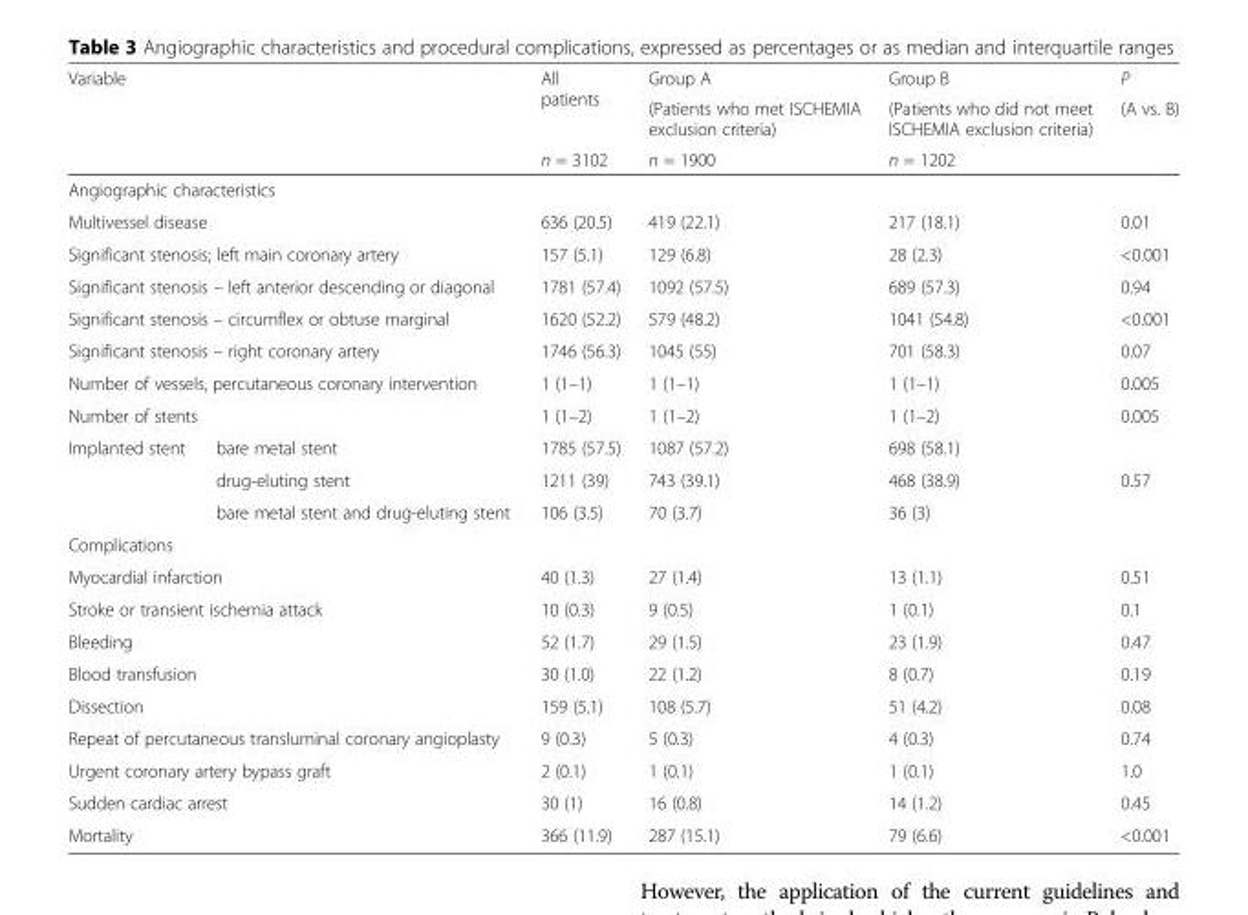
<table><thead><tr><td rowspan="3" colspan="2">Variable</td><td rowspan="3">All patients n = 3102</td><td rowspan="3">Group A (Patients who met ISCHEMIA exclusion criteria) n = 1900</td><td rowspan="3">Group B (Patients who did not meet ISCHEMIA exclusion criteria) n = 1202</td><td rowspan="3">P (A vs. B)</td></tr><tr></tr><tr></tr></thead><tbody><tr><td colspan="6">Angiographic characteristics</td></tr><tr><td colspan="2">Multivessel disease</td><td>636 (20.5)</td><td>419 (22.1)</td><td>217 (18.1)</td><td>0.01</td></tr><tr><td colspan="2">Significant stenosis; left main coronary artery</td><td>157 (5.1)</td><td>129 (6.8)</td><td>28 (2.3)</td><td>&lt;0.001</td></tr><tr><td colspan="2">Significant stenosis – left anterior descending or diagonal</td><td>1781 (57.4)</td><td>1092 (57.5)</td><td>689 (57.3)</td><td>0.94</td></tr><tr><td colspan="2">Significant stenosis – circumflex or obtuse marginal</td><td>1620 (52.2)</td><td>579 (48.2)</td><td>1041 (54.8)</td><td>&lt;0.001</td></tr><tr><td colspan="2">Significant stenosis – right coronary artery</td><td>1746 (56.3)</td><td>1045 (55)</td><td>701 (58.3)</td><td>0.07</td></tr><tr><td colspan="2">Number of vessels, percutaneous coronary intervention</td><td>1 (1–1)</td><td>1 (1–1)</td><td>1 (1–1)</td><td>0.005</td></tr><tr><td colspan="2">Number of stents</td><td>1 (1–2)</td><td>1 (1–2)</td><td>1 (1–2)</td><td>0.005</td></tr><tr><td rowspan="3">Implanted stent</td><td>bare metal stent</td><td>1785 (57.5)</td><td>1087 (57.2)</td><td>698 (58.1)</td><td></td></tr><tr><td>drug-eluting stent</td><td>1211 (39)</td><td>743 (39.1)</td><td>468 (38.9)</td><td>0.57</td></tr><tr><td>bare metal stent and drug-eluting stent</td><td>106 (3.5)</td><td>70 (3.7)</td><td>36 (3)</td><td></td></tr><tr><td colspan="6">Complications</td></tr><tr><td colspan="2">Myocardial infarction</td><td>40 (1.3)</td><td>27 (1.4)</td><td>13 (1.1)</td><td>0.51</td></tr><tr><td colspan="2">Stroke or transient ischemia attack</td><td>10 (0.3)</td><td>9 (0.5)</td><td>1 (0.1)</td><td>0.1</td></tr><tr><td colspan="2">Bleeding</td><td>52 (1.7)</td><td>29 (1.5)</td><td>23 (1.9)</td><td>0.47</td></tr><tr><td colspan="2">Blood transfusion</td><td>30 (1.0)</td><td>22 (1.2)</td><td>8 (0.7)</td><td>0.19</td></tr><tr><td colspan="2">Dissection</td><td>159 (5.1)</td><td>108 (5.7)</td><td>51 (4.2)</td><td>0.08</td></tr><tr><td colspan="2">Repeat of percutaneous transluminal coronary angioplasty</td><td>9 (0.3)</td><td>5 (0.3)</td><td>4 (0.3)</td><td>0.74</td></tr><tr><td colspan="2">Urgent coronary artery bypass graft</td><td>2 (0.1)</td><td>1 (0.1)</td><td>1 (0.1)</td><td>1.0</td></tr><tr><td colspan="2">Sudden cardiac arrest</td><td>30 (1)</td><td>16 (0.8)</td><td>14 (1.2)</td><td>0.45</td></tr><tr><td colspan="2">Mortality</td><td>366 (11.9)</td><td>287 (15.1)</td><td>79 (6.6)</td><td>&lt;0.001</td></tr></tbody></table>